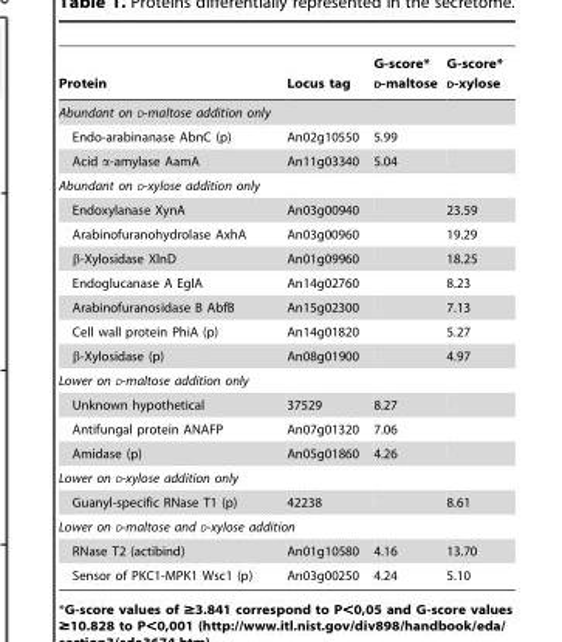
<table><thead><tr><td>Protein</td><td>Locus tag</td><td>G-score* D-maltose</td><td>G-score* D-xylose</td></tr></thead><tbody><tr><td colspan="4">Abundant on D-maltose addition only</td></tr><tr><td>Endo-arabinanase AbnC (p)</td><td>An02g10550</td><td>5.99</td><td></td></tr><tr><td>Acid α-amylase AamA</td><td>An11g03340</td><td>5.04</td><td></td></tr><tr><td colspan="4">Abundant on D-xylose addition only</td></tr><tr><td>Endoxylanase XynA</td><td>An03g00940</td><td></td><td>23.59</td></tr><tr><td>Arabinofuranohydrolase AxhA</td><td>An03g00960</td><td></td><td>19.29</td></tr><tr><td>β-Xylosidase XlnD</td><td>An01g09960</td><td></td><td>18.25</td></tr><tr><td>Endoglucanase A EglA</td><td>An14g02760</td><td></td><td>8.23</td></tr><tr><td>Arabinofuranosidase B AbfB</td><td>An15g02300</td><td></td><td>7.13</td></tr><tr><td>Cell wall protein PhiA (p)</td><td>An14g01820</td><td></td><td>5.27</td></tr><tr><td>β-Xylosidase (p)</td><td>An08g01900</td><td></td><td>4.97</td></tr><tr><td colspan="4">Lower on D-maltose addition only</td></tr><tr><td>Unknown hypothetical</td><td>37529</td><td>8.27</td><td></td></tr><tr><td>Antifungal protein ANAFP</td><td>An07g01320</td><td>7.06</td><td></td></tr><tr><td>Amidase (p)</td><td>An05g01860</td><td>4.26</td><td></td></tr><tr><td colspan="4">Lower on D-xylose addition only</td></tr><tr><td>Guanyl-specific RNase T1 (p)</td><td>42238</td><td></td><td>8.61</td></tr><tr><td colspan="4">Lower on D-maltose and D-xylose addition</td></tr><tr><td>RNase T2 (actibind)</td><td>An01g10580</td><td>4.16</td><td>13.70</td></tr><tr><td>Sensor of PKC1-MPK1 Wsc1 (p)</td><td>An03g00250</td><td>4.24</td><td>5.10</td></tr></tbody></table>